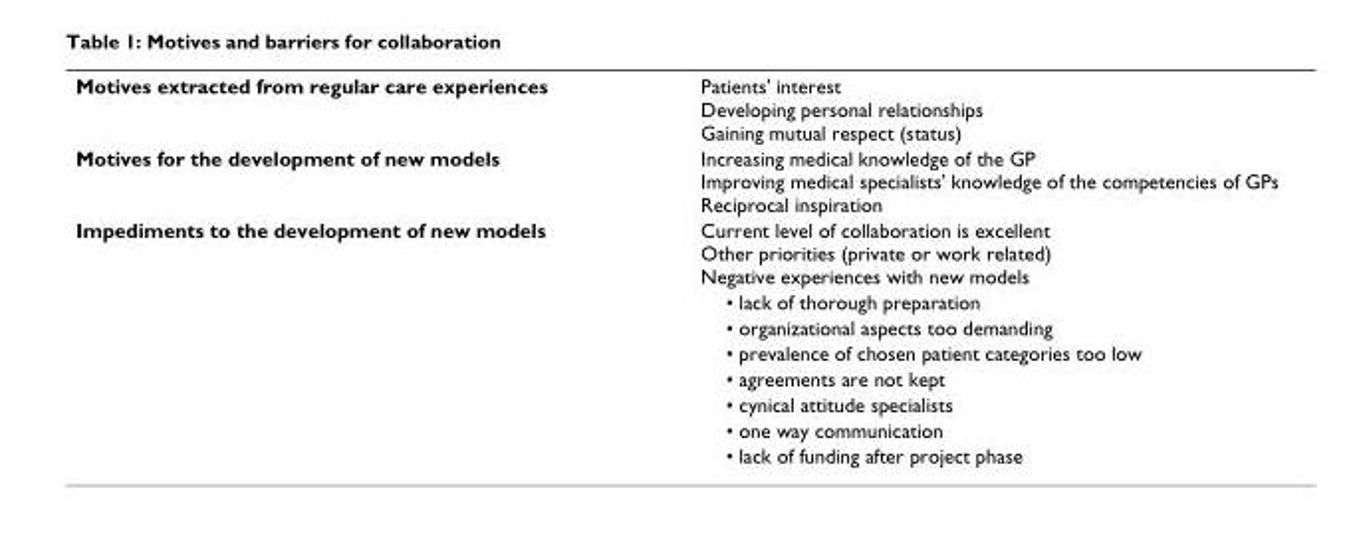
<table><tbody><tr><td>Motives extracted from regular care experiences</td><td>Patients&#x27; interest Developing personal relationships Gaining mutual respect (status)</td></tr><tr><td>Motives for the development of new models</td><td>Increasing medical knowledge of the GP Improving medical specialists&#x27; knowledge of the competencies of GPs Reciprocal inspiration</td></tr><tr><td rowspan="8">Impediments to the development of new models</td><td>Current level of collaboration is excellent Other priorities (private or work related) Negative experiences with new models</td></tr><tr><td>• lack of thorough preparation</td></tr><tr><td>• organizational aspects too demanding</td></tr><tr><td>• prevalence of chosen patient categories too low</td></tr><tr><td>• agreements are not kept</td></tr><tr><td>• cynical attitude specialists</td></tr><tr><td>• one way communication</td></tr><tr><td>• lack of funding after project phase</td></tr></tbody></table>